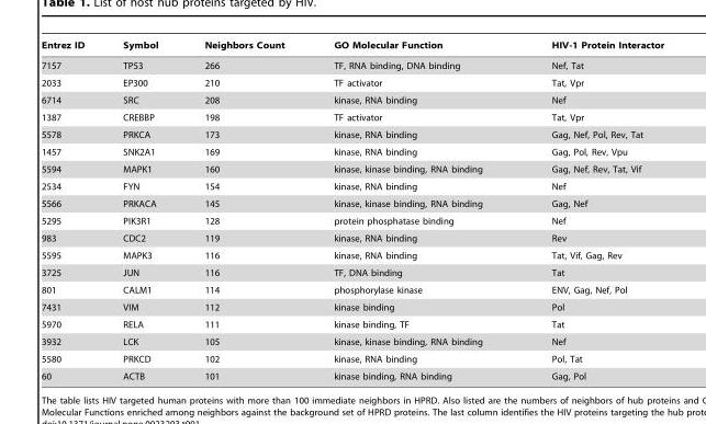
<table><thead><tr><td>Entrez ID</td><td>Symbol</td><td>Neighbors Count</td><td>GO Molecular Function</td><td>HIV-1 Protein Interactor</td></tr></thead><tbody><tr><td>7157</td><td>TP53</td><td>266</td><td>TF, RNA binding, DNA binding</td><td>Nef, Tat</td></tr><tr><td>2033</td><td>EP300</td><td>210</td><td>TF activator</td><td>Tat, Vpr</td></tr><tr><td>6714</td><td>SRC</td><td>208</td><td>kinase, RNA binding</td><td>Nef</td></tr><tr><td>1387</td><td>CREBBP</td><td>198</td><td>TF activator</td><td>Tat, Vpr</td></tr><tr><td>5578</td><td>PRKCA</td><td>173</td><td>kinase, RNA binding</td><td>Gag, Nef, Pol, Rev, Tat</td></tr><tr><td>1457</td><td>SNK2A1</td><td>169</td><td>kinase, RNA binding</td><td>Gag, Pol, Rev, Vpu</td></tr><tr><td>5594</td><td>MAPK1</td><td>160</td><td>kinase, kinase binding, RNA binding</td><td>Gag, Nef, Rev, Tat, Vif</td></tr><tr><td>2534</td><td>FYN</td><td>154</td><td>kinase, RNA binding</td><td>Nef</td></tr><tr><td>5566</td><td>PRKACA</td><td>145</td><td>kinase, kinase binding, RNA binding</td><td>Gag, Nef</td></tr><tr><td>5295</td><td>PIK3R1</td><td>128</td><td>protein phosphatase binding</td><td>Nef</td></tr><tr><td>983</td><td>CDC2</td><td>119</td><td>kinase, RNA binding</td><td>Rev</td></tr><tr><td>5595</td><td>MAPK3</td><td>116</td><td>kinase, RNA binding</td><td>Tat, Vif, Gag, Rev</td></tr><tr><td>3725</td><td>JUN</td><td>116</td><td>TF, DNA binding</td><td>Tat</td></tr><tr><td>801</td><td>CALM1</td><td>114</td><td>phosphorylase kinase</td><td>ENV, Gag, Nef, Pol</td></tr><tr><td>7431</td><td>VIM</td><td>112</td><td>kinase binding</td><td>Pol</td></tr><tr><td>5970</td><td>RELA</td><td>111</td><td>kinase binding, TF</td><td>Tat</td></tr><tr><td>3932</td><td>LCK</td><td>105</td><td>kinase, kinase binding, RNA binding</td><td>Nef</td></tr><tr><td>5580</td><td>PRKCD</td><td>102</td><td>kinase, RNA binding</td><td>Pol, Tat</td></tr><tr><td>60</td><td>ACTB</td><td>101</td><td>kinase binding, RNA binding</td><td>Gag, Pol</td></tr></tbody></table>